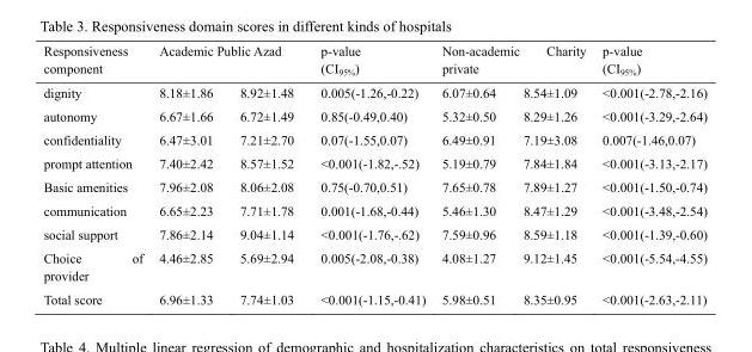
<table><thead><tr><td rowspan="2">Responsiveness component dignity</td><td colspan="2">Academic Public Azad</td><td rowspan="2">p-value (CI<sub>95%</sub>) 0.005(-1.26,-0.22)</td><td colspan="2">Non-academic Charity private</td><td rowspan="2">p-value (CI<sub>95%</sub>) &lt;0.001(-2.78,-2.16)</td></tr><tr><td>8.18±1.86</td><td>8.92±1.48</td><td>6.07±0.64</td><td>8.54±1.09</td></tr></thead><tbody><tr><td>autonomy</td><td>6.67±1.66</td><td>6.72±1.49</td><td>0.85(-0.49,0.40)</td><td>5.32±0.50</td><td>8.29±1.26</td><td>&lt;0.001(-3.29,-2.64)</td></tr><tr><td>confidentiality</td><td>6.47±3.01</td><td>7.21±2.70</td><td>0.07(-1.55,0.07)</td><td>6.49±0.91</td><td>7.19±3.08</td><td>0.007(-1.46,0.07)</td></tr><tr><td>prompt attention</td><td>7.40±2.42</td><td>8.57±1.52</td><td>&lt;0.001(-1.82,-.52)</td><td>5.19±0.79</td><td>7.84±1.84</td><td>&lt;0.001(-3.13,-2.17)</td></tr><tr><td>Basic amenities</td><td>7.96±2.08</td><td>8.06±2.08</td><td>0.75(-0.70,0.51)</td><td>7.65±0.78</td><td>7.89±1.27</td><td>&lt;0.001(-1.50,-0.74)</td></tr><tr><td>communication</td><td>6.65±2.23</td><td>7.71±1.78</td><td>0.001(-1.68,-0.44)</td><td>5.46±1.30</td><td>8.47±1.29</td><td>&lt;0.001(-3.48,-2.54)</td></tr><tr><td>social support</td><td>7.86±2.14</td><td>9.04±1.14</td><td>&lt;0.001(-1.76,-.62)</td><td>7.59±0.96</td><td>8.59±1.18</td><td>&lt;0.001(-1.39,-0.60)</td></tr><tr><td>Choice of provider</td><td>4.46±2.85</td><td>5.69±2.94</td><td>0.005(-2.08,-0.38)</td><td>4.08±1.27</td><td>9.12±1.45</td><td>&lt;0.001(-5.54,-4.55)</td></tr><tr><td>Total score</td><td>6.96±1.33</td><td>7.74±1.03</td><td>&lt;0.001(-1.15,-0.41)</td><td>5.98±0.51</td><td>8.35±0.95</td><td>&lt;0.001(-2.63,-2.11)</td></tr></tbody></table>